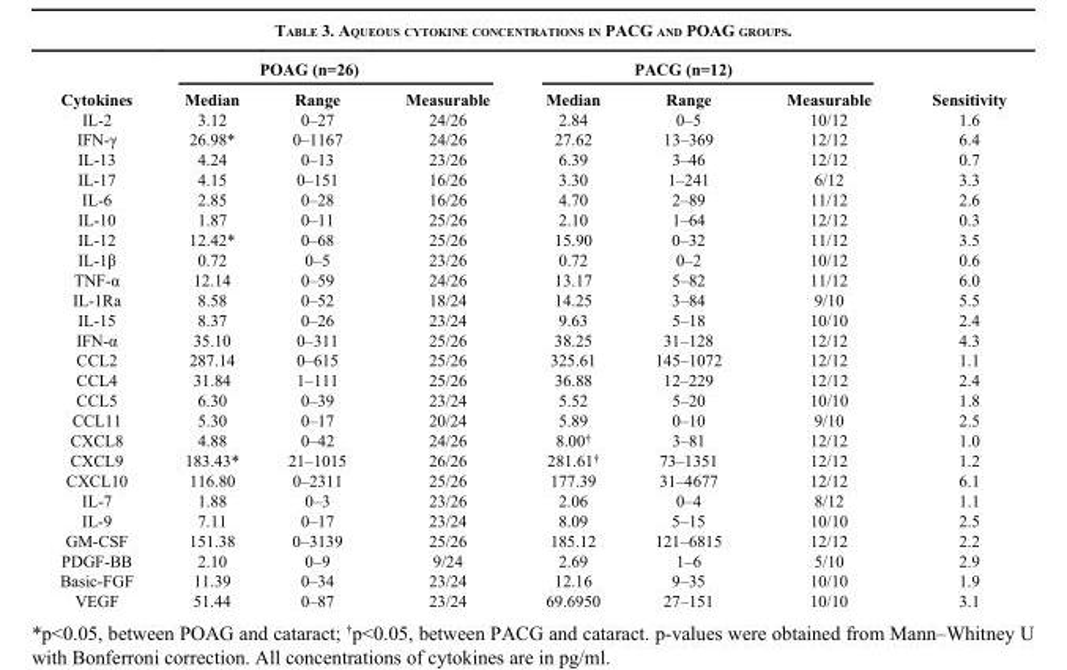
<table><thead><tr><td rowspan="2">Cytokines</td><td colspan="3">POAG (n=26)</td><td colspan="3">PACG (n=12)</td><td rowspan="2">Sensitivity</td></tr><tr><td>Median</td><td>Range</td><td>Measurable</td><td>Median</td><td>Range</td><td>Measurable</td></tr></thead><tbody><tr><td>IL-2</td><td>3.12</td><td>0–27</td><td>24/26</td><td>2.84</td><td>0–5</td><td>10/12</td><td>1.6</td></tr><tr><td>IFN-γ</td><td>26.98*</td><td>0–1167</td><td>24/26</td><td>27.62</td><td>13–369</td><td>12/12</td><td>6.4</td></tr><tr><td>IL-13</td><td>4.24</td><td>0–13</td><td>23/26</td><td>6.39</td><td>3–46</td><td>12/12</td><td>0.7</td></tr><tr><td>IL-17</td><td>4.15</td><td>0–151</td><td>16/26</td><td>3.30</td><td>1–241</td><td>6/12</td><td>3.3</td></tr><tr><td>IL-6</td><td>2.85</td><td>0–28</td><td>16/26</td><td>4.70</td><td>2–89</td><td>11/12</td><td>2.6</td></tr><tr><td>IL-10</td><td>1.87</td><td>0–11</td><td>25/26</td><td>2.10</td><td>1–64</td><td>12/12</td><td>0.3</td></tr><tr><td>IL-12</td><td>12.42*</td><td>0–68</td><td>25/26</td><td>15.90</td><td>0–32</td><td>11/12</td><td>3.5</td></tr><tr><td>IL-1β</td><td>0.72</td><td>0–5</td><td>23/26</td><td>0.72</td><td>0–2</td><td>10/12</td><td>0.6</td></tr><tr><td>TNF-α</td><td>12.14</td><td>0–59</td><td>24/26</td><td>13.17</td><td>5–82</td><td>11/12</td><td>6.0</td></tr><tr><td>IL-1Ra</td><td>8.58</td><td>0–52</td><td>18/24</td><td>14.25</td><td>3–84</td><td>9/10</td><td>5.5</td></tr><tr><td>IL-15</td><td>8.37</td><td>0–26</td><td>23/24</td><td>9.63</td><td>5–18</td><td>10/10</td><td>2.4</td></tr><tr><td>IFN-α</td><td>35.10</td><td>0–311</td><td>25/26</td><td>38.25</td><td>31–128</td><td>12/12</td><td>4.3</td></tr><tr><td>CCL2</td><td>287.14</td><td>0–615</td><td>25/26</td><td>325.61</td><td>145–1072</td><td>12/12</td><td>1.1</td></tr><tr><td>CCL4</td><td>31.84</td><td>1–111</td><td>25/26</td><td>36.88</td><td>12–229</td><td>12/12</td><td>2.4</td></tr><tr><td>CCL5</td><td>6.30</td><td>0–39</td><td>23/24</td><td>5.52</td><td>5–20</td><td>10/10</td><td>1.8</td></tr><tr><td>CCL11</td><td>5.30</td><td>0–17</td><td>20/24</td><td>5.89</td><td>0–10</td><td>9/10</td><td>2.5</td></tr><tr><td>CXCL8</td><td>4.88</td><td>0–42</td><td>24/26</td><td>8.00<sup>†</sup></td><td>3–81</td><td>12/12</td><td>1.0</td></tr><tr><td>CXCL9</td><td>183.43*</td><td>21–1015</td><td>26/26</td><td>281.61<sup>†</sup></td><td>73–1351</td><td>12/12</td><td>1.2</td></tr><tr><td>CXCL10</td><td>116.80</td><td>0–2311</td><td>25/26</td><td>177.39</td><td>31–4677</td><td>12/12</td><td>6.1</td></tr><tr><td>IL-7</td><td>1.88</td><td>0–3</td><td>23/26</td><td>2.06</td><td>0–4</td><td>8/12</td><td>1.1</td></tr><tr><td>IL-9</td><td>7.11</td><td>0–17</td><td>23/24</td><td>8.09</td><td>5–15</td><td>10/10</td><td>2.5</td></tr><tr><td>GM-CSF</td><td>151.38</td><td>0–3139</td><td>25/26</td><td>185.12</td><td>121–6815</td><td>12/12</td><td>2.2</td></tr><tr><td>PDGF-BB</td><td>2.10</td><td>0–9</td><td>9/24</td><td>2.69</td><td>1–6</td><td>5/10</td><td>2.9</td></tr><tr><td>Basic-FGF</td><td>11.39</td><td>0–34</td><td>23/24</td><td>12.16</td><td>9–35</td><td>10/10</td><td>1.9</td></tr><tr><td>VEGF</td><td>51.44</td><td>0–87</td><td>23/24</td><td>69.6950</td><td>27–151</td><td>10/10</td><td>3.1</td></tr></tbody></table>